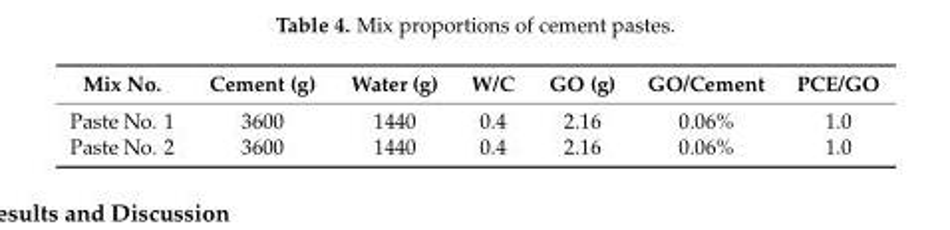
<table><thead><tr><td>Mix No.</td><td>Cement (g)</td><td>Water (g)</td><td>W/C</td><td>GO (g)</td><td>GO/Cement</td><td>PCE/GO</td></tr></thead><tbody><tr><td>Paste No. 1</td><td>3600</td><td>1440</td><td>0.4</td><td>2.16</td><td>0.06%</td><td>1.0</td></tr><tr><td>Paste No. 2</td><td>3600</td><td>1440</td><td>0.4</td><td>2.16</td><td>0.06%</td><td>1.0</td></tr></tbody></table>